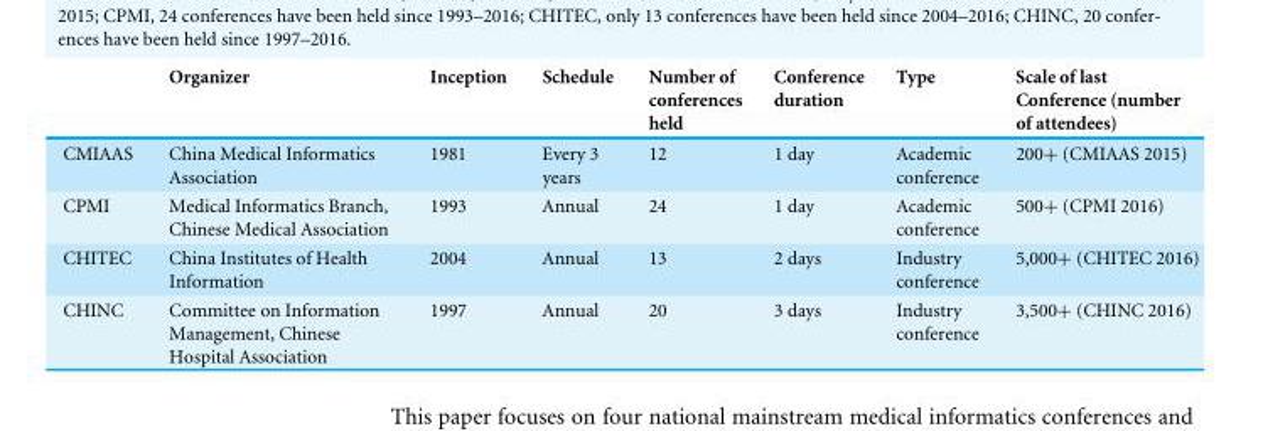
<table><thead><tr><td></td><td>Organizer</td><td>Inception</td><td>Schedule</td><td>Number of conferences held</td><td>Conference duration</td><td>Type</td><td>Scale of last Conference (number of attendees)</td></tr></thead><tbody><tr><td>CMIAAS</td><td>China Medical Informatics Association</td><td>1981</td><td>Every 3 years</td><td>12</td><td>1 day</td><td>Academic conference</td><td>200+ (CMIAAS 2015)</td></tr><tr><td>CPMI</td><td>Medical Informatics Branch, Chinese Medical Association</td><td>1993</td><td>Annual</td><td>24</td><td>1 day</td><td>Academic conference</td><td>500+ (CPMI 2016)</td></tr><tr><td>CHITEC</td><td>China Institutes of Health Information</td><td>2004</td><td>Annual</td><td>13</td><td>2 days</td><td>Industry conference</td><td>5,000+ (CHITEC 2016)</td></tr><tr><td>CHINC</td><td>Committee on Information Management, Chinese Hospital Association</td><td>1997</td><td>Annual</td><td>20</td><td>3 days</td><td>Industry conference</td><td>3,500+ (CHINC 2016)</td></tr></tbody></table>